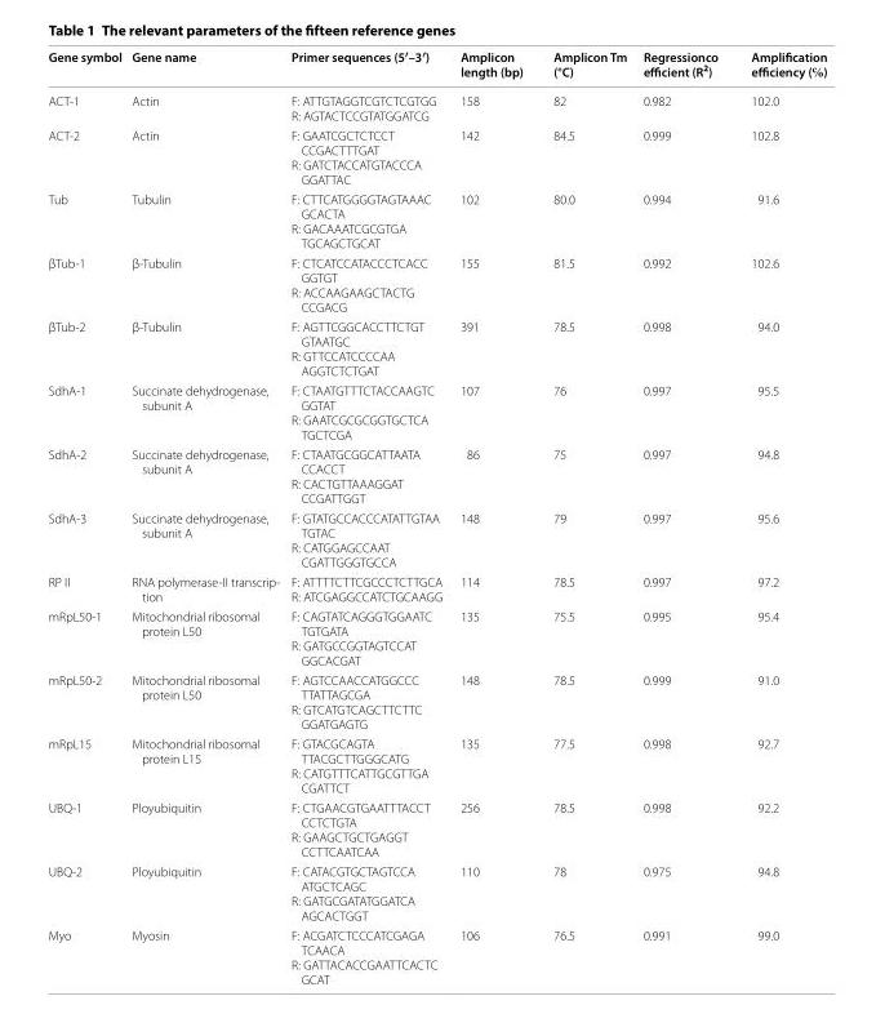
<table><thead><tr><td>Gene symbol</td><td>Gene name</td><td>Primer sequences (5′–3′)</td><td>Amplicon length (bp)</td><td>Amplicon Tm (°C)</td><td>Regressionco efficient (R<sup>2</sup>)</td><td>Amplification efficiency (℅)</td></tr></thead><tbody><tr><td>ACT‑1</td><td>Actin</td><td>F: ATTGTAGGTCGTCTCGTGG R: AGTACTCCGTATGGATCG</td><td>158</td><td>82</td><td>0.982</td><td>102.0</td></tr><tr><td>ACT‑2</td><td>Actin</td><td>F: GAATCGCTCTCCT CCGACTTTGAT R: GATCTACCATGTACCCA GGATTAC</td><td>142</td><td>84.5</td><td>0.999</td><td>102.8</td></tr><tr><td>Tub</td><td>Tubulin</td><td>F: CTTCATGGGGTAGTAAAC GCACTA R: GACAAATCGCGTGA TGCAGCTGCAT</td><td>102</td><td>80.0</td><td>0.994</td><td>91.6</td></tr><tr><td>βTub‑1</td><td>β‑Tubulin</td><td>F: CTCATCCATACCCTCACC GGTGT R: ACCAAGAAGCTACTG CCGACG</td><td>155</td><td>81.5</td><td>0.992</td><td>102.6</td></tr><tr><td>βTub‑2</td><td>β‑Tubulin</td><td>F: AGTTCGGCACCTTCTGT GTAATGC R: GTTCCATCCCCAA AGGTCTCTGAT</td><td>391</td><td>78.5</td><td>0.998</td><td>94.0</td></tr><tr><td>SdhA‑1</td><td>Succinate dehydrogenase, subunit A</td><td>F: CTAATGTTTCTACCAAGTC GGTAT R: GAATCGCGCGGTGCTCA TGCTCGA</td><td>107</td><td>76</td><td>0.997</td><td>95.5</td></tr><tr><td>SdhA‑2</td><td>Succinate dehydrogenase, subunit A</td><td>F: CTAATGCGGCATTAATA CCACCT R: CACTGTTAAAGGAT CCGATTGGT</td><td>86</td><td>75</td><td>0.997</td><td>94.8</td></tr><tr><td>SdhA‑3</td><td>Succinate dehydrogenase, subunit A</td><td>F: GTATGCCACCCATATTGTAA TGTAC R: CATGGAGCCAAT CGATTGGGTGCCA</td><td>148</td><td>79</td><td>0.997</td><td>95.6</td></tr><tr><td>RP II</td><td>RNA polymerase‑II transcrip‑ tion</td><td>F: ATTTTCTTCGCCCTCTTGCA R: ATCGAGGCCATCTGCAAGG</td><td>114</td><td>78.5</td><td>0.997</td><td>97.2</td></tr><tr><td>mRpL50‑1</td><td>Mitochondrial ribosomal protein L50</td><td>F: CAGTATCAGGGTGGAATC TGTGATA R: GATGCCGGTAGTCCAT GGCACGAT</td><td>135</td><td>75.5</td><td>0.995</td><td>95.4</td></tr><tr><td>mRpL50‑2</td><td>Mitochondrial ribosomal protein L50</td><td>F: AGTCCAACCATGGCCC TTATTAGCGA R: GTCATGTCAGCTTCTTC GGATGAGTG</td><td>148</td><td>78.5</td><td>0.999</td><td>91.0</td></tr><tr><td>mRpL15</td><td>Mitochondrial ribosomal protein L15</td><td>F: GTACGCAGTA TTACGCTTGGGCATG R: CATGTTTCATTGCGTTGA CGATTCT</td><td>135</td><td>77.5</td><td>0.998</td><td>92.7</td></tr><tr><td>UBQ‑1</td><td>Ployubiquitin</td><td>F: CTGAACGTGAATTTACCT CCTCTGTA R: GAAGCTGCTGAGGT CCTTCAATCAA</td><td>256</td><td>78.5</td><td>0.998</td><td>92.2</td></tr><tr><td>UBQ‑2</td><td>Ployubiquitin</td><td>F: CATACGTGCTAGTCCA ATGCTCAGC R: GATGCGATATGGATCA AGCACTGGT</td><td>110</td><td>78</td><td>0.975</td><td>94.8</td></tr><tr><td>Myo</td><td>Myosin</td><td>F: ACGATCTCCCATCGAGA TCAACA R: GATTACACCGAATTCACTC GCAT</td><td>106</td><td>76.5</td><td>0.991</td><td>99.0</td></tr></tbody></table>